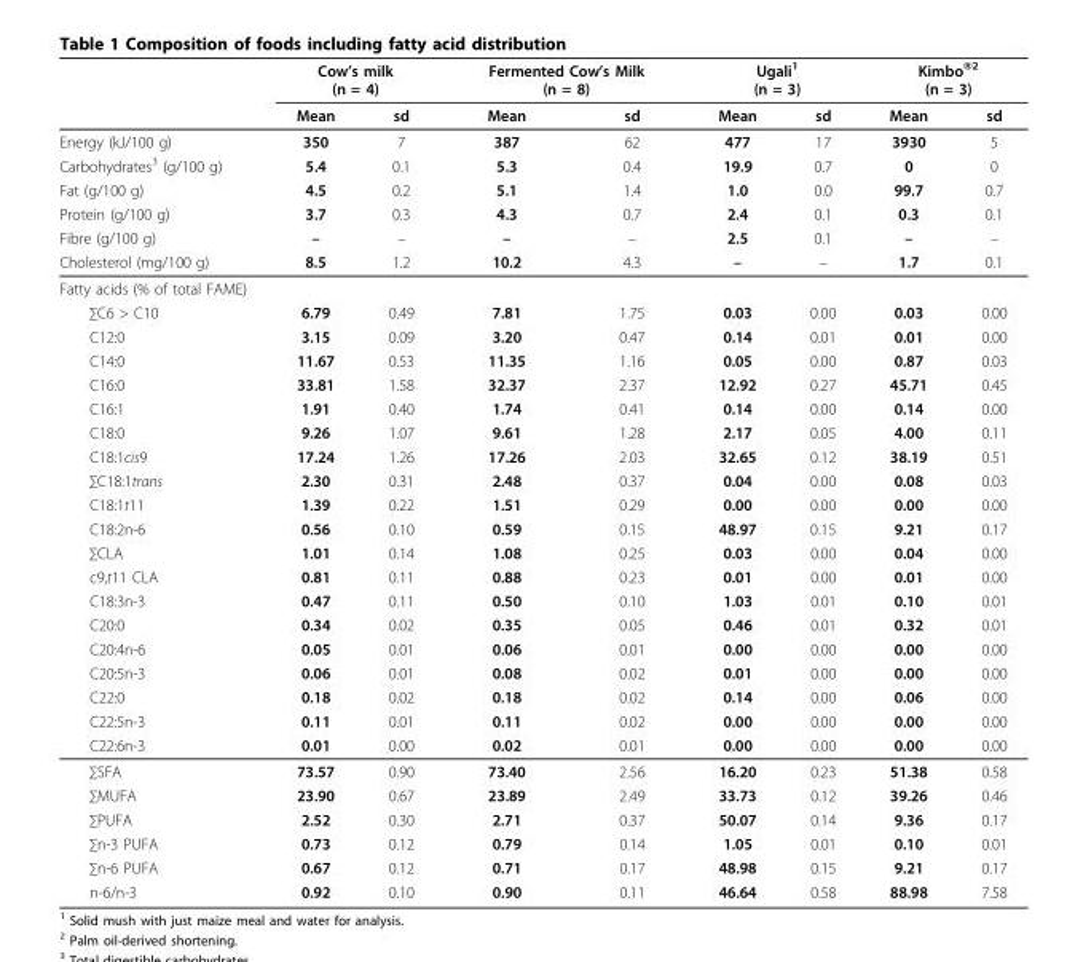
<table><thead><tr><td rowspan="2"></td><td colspan="2">Cow’s milk (n = 4)</td><td colspan="2">Fermented Cow’s Milk (n = 8)</td><td colspan="2">Ugali<sup>1</sup> (n = 3)</td><td colspan="2">Kimbo<sup>®2</sup> (n = 3)</td></tr><tr><td>Mean</td><td>sd</td><td>Mean</td><td>sd</td><td>Mean</td><td>sd</td><td>Mean</td><td>sd</td></tr></thead><tbody><tr><td>Energy (kJ/100 g)</td><td>350</td><td>7</td><td>387</td><td>62</td><td>477</td><td>17</td><td>3930</td><td>5</td></tr><tr><td>Carbohydrates<sup>3</sup> (g/100 g)</td><td>5.4</td><td>0.1</td><td>5.3</td><td>0.4</td><td>19.9</td><td>0.7</td><td>0</td><td>0</td></tr><tr><td>Fat (g/100 g)</td><td>4.5</td><td>0.2</td><td>5.1</td><td>1.4</td><td>1.0</td><td>0.0</td><td>99.7</td><td>0.7</td></tr><tr><td>Protein (g/100 g)</td><td>3.7</td><td>0.3</td><td>4.3</td><td>0.7</td><td>2.4</td><td>0.1</td><td>0.3</td><td>0.1</td></tr><tr><td>Fibre (g/100 g)</td><td>–</td><td>–</td><td>–</td><td>–</td><td>2.5</td><td>0.1</td><td>–</td><td>–</td></tr><tr><td>Cholesterol (mg/100 g)</td><td>8.5</td><td>1.2</td><td>10.2</td><td>4.3</td><td>–</td><td>–</td><td>1.7</td><td>0.1</td></tr><tr><td colspan="9">Fatty acids (% of total FAME)</td></tr><tr><td>∑C6 &gt; C10</td><td>6.79</td><td>0.49</td><td>7.81</td><td>1.75</td><td>0.03</td><td>0.00</td><td>0.03</td><td>0.00</td></tr><tr><td>C12:0</td><td>3.15</td><td>0.09</td><td>3.20</td><td>0.47</td><td>0.14</td><td>0.01</td><td>0.01</td><td>0.00</td></tr><tr><td>C14:0</td><td>11.67</td><td>0.53</td><td>11.35</td><td>1.16</td><td>0.05</td><td>0.00</td><td>0.87</td><td>0.03</td></tr><tr><td>C16:0</td><td>33.81</td><td>1.58</td><td>32.37</td><td>2.37</td><td>12.92</td><td>0.27</td><td>45.71</td><td>0.45</td></tr><tr><td>C16:1</td><td>1.91</td><td>0.40</td><td>1.74</td><td>0.41</td><td>0.14</td><td>0.00</td><td>0.14</td><td>0.00</td></tr><tr><td>C18:0</td><td>9.26</td><td>1.07</td><td>9.61</td><td>1.28</td><td>2.17</td><td>0.05</td><td>4.00</td><td>0.11</td></tr><tr><td>C18:1cis9</td><td>17.24</td><td>1.26</td><td>17.26</td><td>2.03</td><td>32.65</td><td>0.12</td><td>38.19</td><td>0.51</td></tr><tr><td>∑C18:1trans</td><td>2.30</td><td>0.31</td><td>2.48</td><td>0.37</td><td>0.04</td><td>0.00</td><td>0.08</td><td>0.03</td></tr><tr><td>C18:1t11</td><td>1.39</td><td>0.22</td><td>1.51</td><td>0.29</td><td>0.00</td><td>0.00</td><td>0.00</td><td>0.00</td></tr><tr><td>C18:2n-6</td><td>0.56</td><td>0.10</td><td>0.59</td><td>0.15</td><td>48.97</td><td>0.15</td><td>9.21</td><td>0.17</td></tr><tr><td>∑CLA</td><td>1.01</td><td>0.14</td><td>1.08</td><td>0.25</td><td>0.03</td><td>0.00</td><td>0.04</td><td>0.00</td></tr><tr><td>c9,t11 CLA</td><td>0.81</td><td>0.11</td><td>0.88</td><td>0.23</td><td>0.01</td><td>0.00</td><td>0.01</td><td>0.00</td></tr><tr><td>C18:3n-3</td><td>0.47</td><td>0.11</td><td>0.50</td><td>0.10</td><td>1.03</td><td>0.01</td><td>0.10</td><td>0.01</td></tr><tr><td>C20:0</td><td>0.34</td><td>0.02</td><td>0.35</td><td>0.05</td><td>0.46</td><td>0.01</td><td>0.32</td><td>0.01</td></tr><tr><td>C20:4n-6</td><td>0.05</td><td>0.01</td><td>0.06</td><td>0.01</td><td>0.00</td><td>0.00</td><td>0.00</td><td>0.00</td></tr><tr><td>C20:5n-3</td><td>0.06</td><td>0.01</td><td>0.08</td><td>0.02</td><td>0.01</td><td>0.00</td><td>0.00</td><td>0.00</td></tr><tr><td>C22:0</td><td>0.18</td><td>0.02</td><td>0.18</td><td>0.02</td><td>0.14</td><td>0.00</td><td>0.06</td><td>0.00</td></tr><tr><td>C22:5n-3</td><td>0.11</td><td>0.01</td><td>0.11</td><td>0.02</td><td>0.00</td><td>0.00</td><td>0.00</td><td>0.00</td></tr><tr><td>C22:6n-3</td><td>0.01</td><td>0.00</td><td>0.02</td><td>0.01</td><td>0.00</td><td>0.00</td><td>0.00</td><td>0.00</td></tr><tr><td>∑SFA</td><td>73.57</td><td>0.90</td><td>73.40</td><td>2.56</td><td>16.20</td><td>0.23</td><td>51.38</td><td>0.58</td></tr><tr><td>∑MUFA</td><td>23.90</td><td>0.67</td><td>23.89</td><td>2.49</td><td>33.73</td><td>0.12</td><td>39.26</td><td>0.46</td></tr><tr><td>∑PUFA</td><td>2.52</td><td>0.30</td><td>2.71</td><td>0.37</td><td>50.07</td><td>0.14</td><td>9.36</td><td>0.17</td></tr><tr><td>∑n-3 PUFA</td><td>0.73</td><td>0.12</td><td>0.79</td><td>0.14</td><td>1.05</td><td>0.01</td><td>0.10</td><td>0.01</td></tr><tr><td>∑n-6 PUFA</td><td>0.67</td><td>0.12</td><td>0.71</td><td>0.17</td><td>48.98</td><td>0.15</td><td>9.21</td><td>0.17</td></tr><tr><td>n-6/n-3</td><td>0.92</td><td>0.10</td><td>0.90</td><td>0.11</td><td>46.64</td><td>0.58</td><td>88.98</td><td>7.58</td></tr></tbody></table>